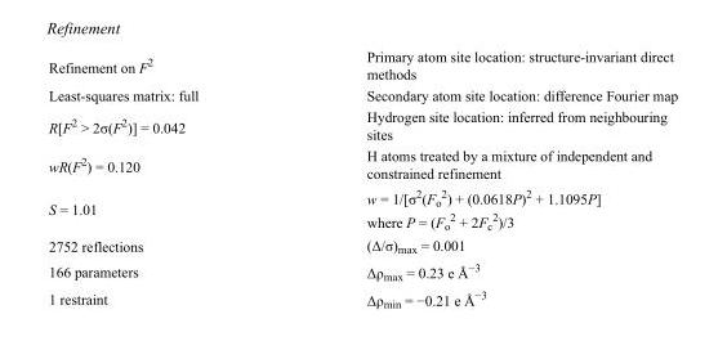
<table><tbody><tr><td>Refinement on F<sup>2</sup></td><td>Primary atom site location: structure-invariant direct methods</td></tr><tr><td>Least-squares matrix: full</td><td>Secondary atom site location: difference Fourier map</td></tr><tr><td>R[F<sup>2</sup> &gt; 2σ(F<sup>2</sup>)] = 0.042</td><td>Hydrogen site location: inferred from neighbouring sites</td></tr><tr><td>wR(F<sup>2</sup>) = 0.120</td><td>H atoms treated by a mixture of independent and constrained refinement</td></tr><tr><td>S = 1.01</td><td>w = 1/[σ<sup>2</sup>(F<sub>o</sub> <sup>2</sup>) + (0.0618P)<sup>2</sup> + 1.1095P] where P = (F<sub>o</sub> <sup>2</sup> + 2F<sub>c</sub> <sup>2</sup>)/3</td></tr><tr><td>2752 reflections</td><td>(Δ/σ)<sub>max</sub> = 0.001</td></tr><tr><td>166 parameters</td><td>Δρ<sub>max</sub> = 0.23 e Å<sup>−3</sup></td></tr><tr><td>1 restraint</td><td>Δρ<sub>min</sub> = −0.21 e Å<sup>−3</sup></td></tr></tbody></table>